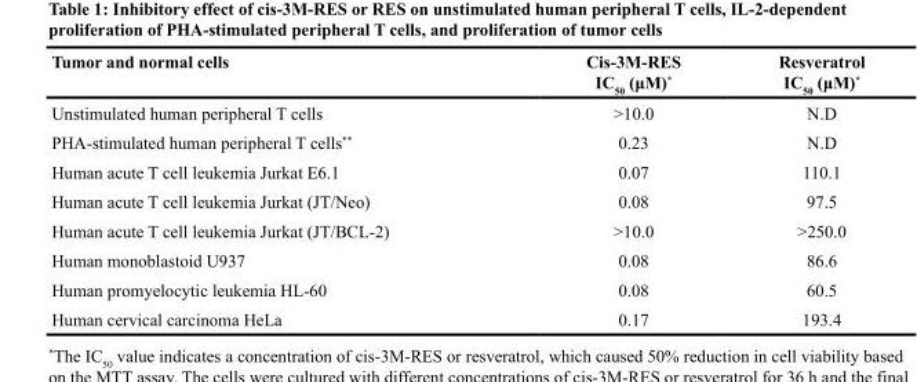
<table><thead><tr><td>Tumor and normal cells</td><td>Cis-3M-RES IC<sub>50</sub> (μM)*</td><td>Resveratrol IC<sub>50</sub> (μM)*</td></tr></thead><tbody><tr><td>Unstimulated human peripheral T cells</td><td>&gt;10.0</td><td>N.D</td></tr><tr><td>PHA-stimulated human peripheral T cells**</td><td>0.23</td><td>N.D</td></tr><tr><td>Human acute T cell leukemia Jurkat E6.1</td><td>0.07</td><td>110.1</td></tr><tr><td>Human acute T cell leukemia Jurkat (JT/Neo)</td><td>0.08</td><td>97.5</td></tr><tr><td>Human acute T cell leukemia Jurkat (JT/BCL-2)</td><td>&gt;10.0</td><td>&gt;250.0</td></tr><tr><td>Human monoblastoid U937</td><td>0.08</td><td>86.6</td></tr><tr><td>Human promyelocytic leukemia HL-60</td><td>0.08</td><td>60.5</td></tr><tr><td>Human cervical carcinoma HeLa</td><td>0.17</td><td>193.4</td></tr></tbody></table>